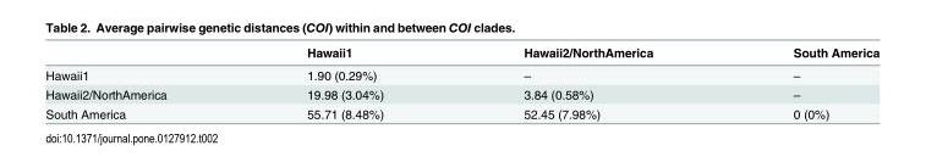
<table><thead><tr><td></td><td>Hawaii1</td><td>Hawaii2/NorthAmerica</td><td>South America</td></tr></thead><tbody><tr><td>Hawaii1</td><td>1.90 (0.29%)</td><td>–</td><td>–</td></tr><tr><td>Hawaii2/NorthAmerica</td><td>19.98 (3.04%)</td><td>3.84 (0.58%)</td><td>–</td></tr><tr><td>South America</td><td>55.71 (8.48%)</td><td>52.45 (7.98%)</td><td>0 (0%)</td></tr></tbody></table>